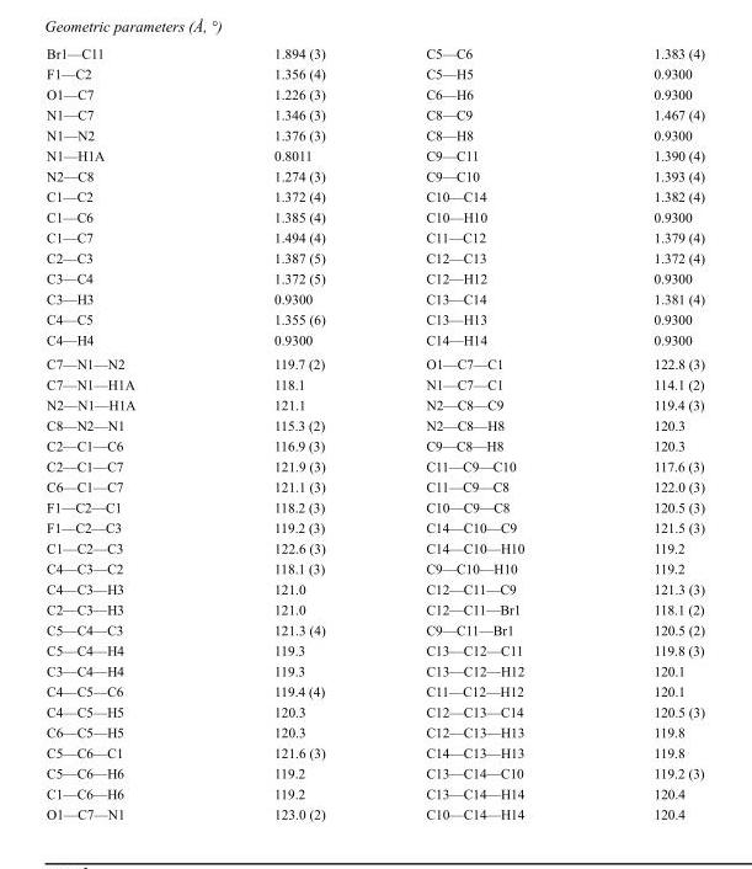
<table><tbody><tr><td>Br1—C11</td><td>1.894 (3)</td><td>C5—C6</td><td>1.383 (4)</td></tr><tr><td>F1—C2</td><td>1.356 (4)</td><td>C5—H5</td><td>0.9300</td></tr><tr><td>O1—C7</td><td>1.226 (3)</td><td>C6—H6</td><td>0.9300</td></tr><tr><td>N1—C7</td><td>1.346 (3)</td><td>C8—C9</td><td>1.467 (4)</td></tr><tr><td>N1—N2</td><td>1.376 (3)</td><td>C8—H8</td><td>0.9300</td></tr><tr><td>N1—H1A</td><td>0.8011</td><td>C9—C11</td><td>1.390 (4)</td></tr><tr><td>N2—C8</td><td>1.274 (3)</td><td>C9—C10</td><td>1.393 (4)</td></tr><tr><td>C1—C2</td><td>1.372 (4)</td><td>C10—C14</td><td>1.382 (4)</td></tr><tr><td>C1—C6</td><td>1.385 (4)</td><td>C10—H10</td><td>0.9300</td></tr><tr><td>C1—C7</td><td>1.494 (4)</td><td>C11—C12</td><td>1.379 (4)</td></tr><tr><td>C2—C3</td><td>1.387 (5)</td><td>C12—C13</td><td>1.372 (4)</td></tr><tr><td>C3—C4</td><td>1.372 (5)</td><td>C12—H12</td><td>0.9300</td></tr><tr><td>C3—H3</td><td>0.9300</td><td>C13—C14</td><td>1.381 (4)</td></tr><tr><td>C4—C5</td><td>1.355 (6)</td><td>C13—H13</td><td>0.9300</td></tr><tr><td>C4—H4</td><td>0.9300</td><td>C14—H14</td><td>0.9300</td></tr><tr><td>C7—N1—N2</td><td>119.7 (2)</td><td>O1—C7—C1</td><td>122.8 (3)</td></tr><tr><td>C7—N1—H1A</td><td>118.1</td><td>N1—C7—C1</td><td>114.1 (2)</td></tr><tr><td>N2—N1—H1A</td><td>121.1</td><td>N2—C8—C9</td><td>119.4 (3)</td></tr><tr><td>C8—N2—N1</td><td>115.3 (2)</td><td>N2—C8—H8</td><td>120.3</td></tr><tr><td>C2—C1—C6</td><td>116.9 (3)</td><td>C9—C8—H8</td><td>120.3</td></tr><tr><td>C2—C1—C7</td><td>121.9 (3)</td><td>C11—C9—C10</td><td>117.6 (3)</td></tr><tr><td>C6—C1—C7</td><td>121.1 (3)</td><td>C11—C9—C8</td><td>122.0 (3)</td></tr><tr><td>F1—C2—C1</td><td>118.2 (3)</td><td>C10—C9—C8</td><td>120.5 (3)</td></tr><tr><td>F1—C2—C3</td><td>119.2 (3)</td><td>C14—C10—C9</td><td>121.5 (3)</td></tr><tr><td>C1—C2—C3</td><td>122.6 (3)</td><td>C14—C10—H10</td><td>119.2</td></tr><tr><td>C4—C3—C2</td><td>118.1 (3)</td><td>C9—C10—H10</td><td>119.2</td></tr><tr><td>C4—C3—H3</td><td>121.0</td><td>C12—C11—C9</td><td>121.3 (3)</td></tr><tr><td>C2—C3—H3</td><td>121.0</td><td>C12—C11—Br1</td><td>118.1 (2)</td></tr><tr><td>C5—C4—C3</td><td>121.3 (4)</td><td>C9—C11—Br1</td><td>120.5 (2)</td></tr><tr><td>C5—C4—H4</td><td>119.3</td><td>C13—C12—C11</td><td>119.8 (3)</td></tr><tr><td>C3—C4—H4</td><td>119.3</td><td>C13—C12—H12</td><td>120.1</td></tr><tr><td>C4—C5—C6</td><td>119.4 (4)</td><td>C11—C12—H12</td><td>120.1</td></tr><tr><td>C4—C5—H5</td><td>120.3</td><td>C12—C13—C14</td><td>120.5 (3)</td></tr><tr><td>C6—C5—H5</td><td>120.3</td><td>C12—C13—H13</td><td>119.8</td></tr><tr><td>C5—C6—C1</td><td>121.6 (3)</td><td>C14—C13—H13</td><td>119.8</td></tr><tr><td>C5—C6—H6</td><td>119.2</td><td>C13—C14—C10</td><td>119.2 (3)</td></tr><tr><td>C1—C6—H6</td><td>119.2</td><td>C13—C14—H14</td><td>120.4</td></tr><tr><td>O1—C7—N1</td><td>123.0 (2)</td><td>C10—C14—H14</td><td>120.4</td></tr></tbody></table>